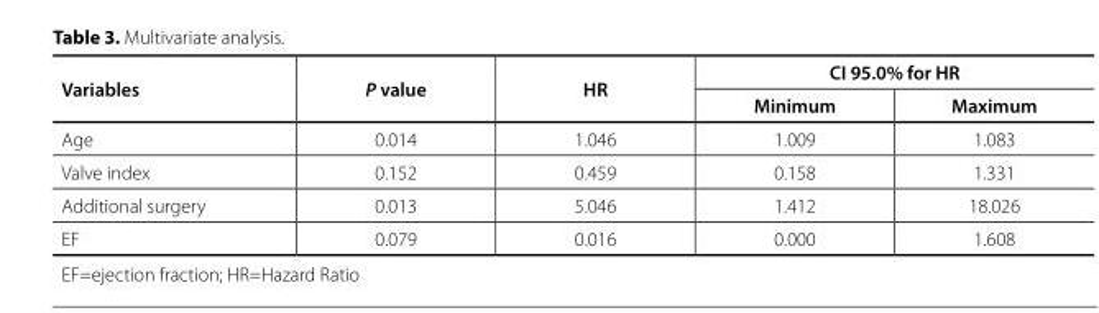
<table><thead><tr><td rowspan="2">Variables</td><td rowspan="2">P value</td><td rowspan="2">HR</td><td colspan="2">CI 95.0% for HR</td></tr><tr><td>Minimum</td><td>Maximum</td></tr></thead><tbody><tr><td>Age</td><td>0.014</td><td>1.046</td><td>1.009</td><td>1.083</td></tr><tr><td>Valve index</td><td>0.152</td><td>0.459</td><td>0.158</td><td>1.331</td></tr><tr><td>Additional surgery</td><td>0.013</td><td>5.046</td><td>1.412</td><td>18.026</td></tr><tr><td>EF</td><td>0.079</td><td>0.016</td><td>0.000</td><td>1.608</td></tr></tbody></table>